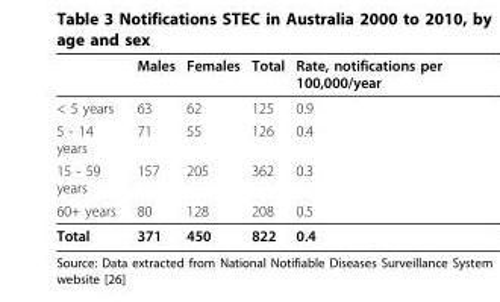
<table><thead><tr><td></td><td>Males</td><td>Females</td><td>Total</td><td>Rate, notifications per 100,000/year</td></tr></thead><tbody><tr><td>&lt; 5 years</td><td>63</td><td>62</td><td>125</td><td>0.9</td></tr><tr><td>5 - 14 years</td><td>71</td><td>55</td><td>126</td><td>0.4</td></tr><tr><td>15 - 59 years</td><td>157</td><td>205</td><td>362</td><td>0.3</td></tr><tr><td>60+ years</td><td>80</td><td>128</td><td>208</td><td>0.5</td></tr><tr><td>Total</td><td>371</td><td>450</td><td>822</td><td>0.4</td></tr></tbody></table>